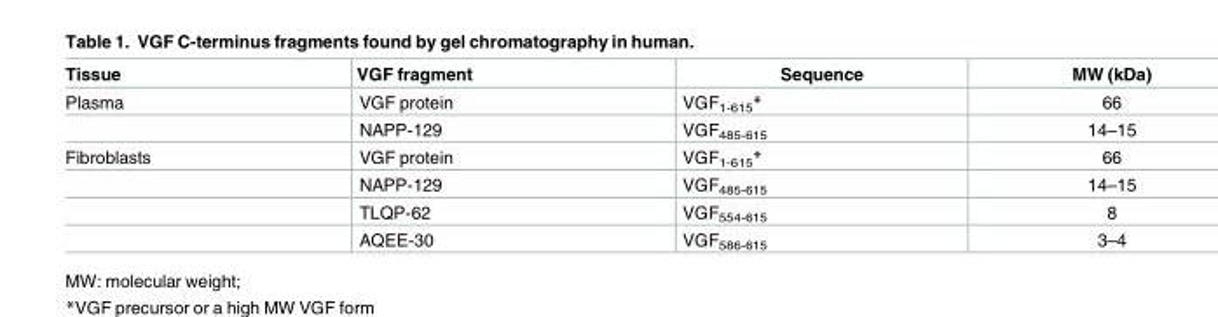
<table><thead><tr><td>Tissue</td><td>VGF fragment</td><td>Sequence</td><td>MW (kDa)</td></tr></thead><tbody><tr><td rowspan="2">Plasma</td><td>VGF protein</td><td>VGF<sub>1-615</sub>*</td><td>66</td></tr><tr><td>NAPP-129</td><td>VGF<sub>485-615</sub></td><td>14–15</td></tr><tr><td rowspan="4">Fibroblasts</td><td>VGF protein</td><td>VGF<sub>1-615</sub>*</td><td>66</td></tr><tr><td>NAPP-129</td><td>VGF<sub>485-615</sub></td><td>14–15</td></tr><tr><td>TLQP-62</td><td>VGF<sub>554-615</sub></td><td>8</td></tr><tr><td>AQEE-30</td><td>VGF<sub>586-615</sub></td><td>3–4</td></tr></tbody></table>